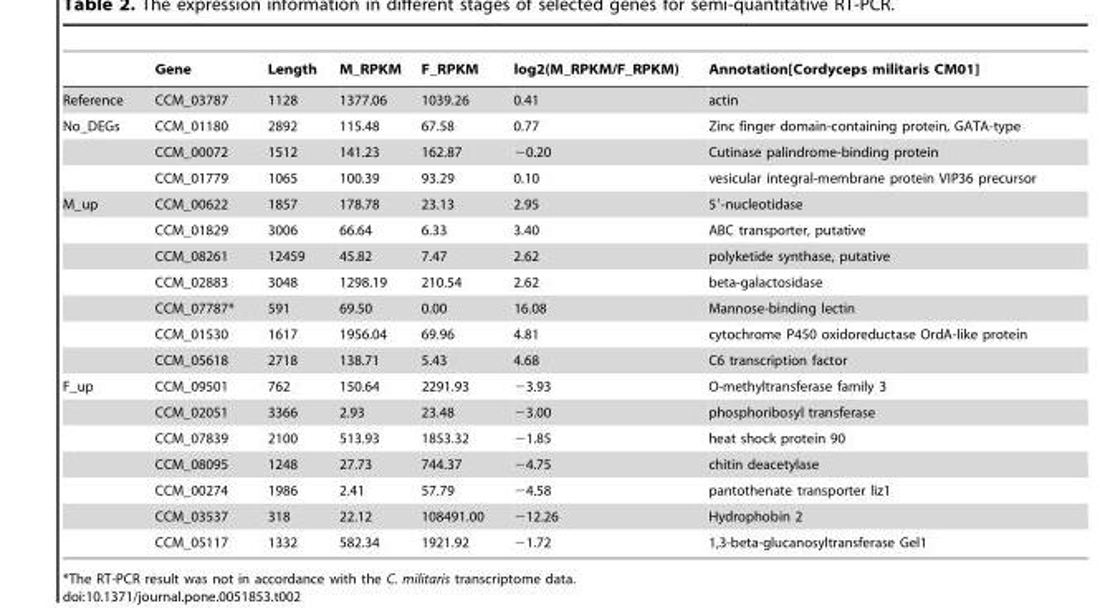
<table><thead><tr><td></td><td>Gene</td><td>Length</td><td>M_RPKM</td><td>F_RPKM</td><td>log2(M_RPKM/F_RPKM)</td><td>Annotation[Cordyceps militaris CM01]</td></tr></thead><tbody><tr><td>Reference</td><td>CCM_03787</td><td>1128</td><td>1377.06</td><td>1039.26</td><td>0.41</td><td>actin</td></tr><tr><td rowspan="3">No_DEGs</td><td>CCM_01180</td><td>2892</td><td>115.48</td><td>67.58</td><td>0.77</td><td>Zinc finger domain-containing protein, GATA-type</td></tr><tr><td>CCM_00072</td><td>1512</td><td>141.23</td><td>162.87</td><td>−0.20</td><td>Cutinase palindrome-binding protein</td></tr><tr><td>CCM_01779</td><td>1065</td><td>100.39</td><td>93.29</td><td>0.10</td><td>vesicular integral-membrane protein VIP36 precursor</td></tr><tr><td rowspan="7">M_up</td><td>CCM_00622</td><td>1857</td><td>178.78</td><td>23.13</td><td>2.95</td><td>5′-nucleotidase</td></tr><tr><td>CCM_01829</td><td>3006</td><td>66.64</td><td>6.33</td><td>3.40</td><td>ABC transporter, putative</td></tr><tr><td>CCM_08261</td><td>12459</td><td>45.82</td><td>7.47</td><td>2.62</td><td>polyketide synthase, putative</td></tr><tr><td>CCM_02883</td><td>3048</td><td>1298.19</td><td>210.54</td><td>2.62</td><td>beta-galactosidase</td></tr><tr><td>CCM_07787*</td><td>591</td><td>69.50</td><td>0.00</td><td>16.08</td><td>Mannose-binding lectin</td></tr><tr><td>CCM_01530</td><td>1617</td><td>1956.04</td><td>69.96</td><td>4.81</td><td>cytochrome P450 oxidoreductase OrdA-like protein</td></tr><tr><td>CCM_05618</td><td>2718</td><td>138.71</td><td>5.43</td><td>4.68</td><td>C6 transcription factor</td></tr><tr><td rowspan="7">F_up</td><td>CCM_09501</td><td>762</td><td>150.64</td><td>2291.93</td><td>−3.93</td><td>O-methyltransferase family 3</td></tr><tr><td>CCM_02051</td><td>3366</td><td>2.93</td><td>23.48</td><td>−3.00</td><td>phosphoribosyl transferase</td></tr><tr><td>CCM_07839</td><td>2100</td><td>513.93</td><td>1853.32</td><td>−1.85</td><td>heat shock protein 90</td></tr><tr><td>CCM_08095</td><td>1248</td><td>27.73</td><td>744.37</td><td>−4.75</td><td>chitin deacetylase</td></tr><tr><td>CCM_00274</td><td>1986</td><td>2.41</td><td>57.79</td><td>−4.58</td><td>pantothenate transporter liz1</td></tr><tr><td>CCM_03537</td><td>318</td><td>22.12</td><td>108491.00</td><td>−12.26</td><td>Hydrophobin 2</td></tr><tr><td>CCM_05117</td><td>1332</td><td>582.34</td><td>1921.92</td><td>−1.72</td><td>1,3-beta-glucanosyltransferase Gel1</td></tr></tbody></table>